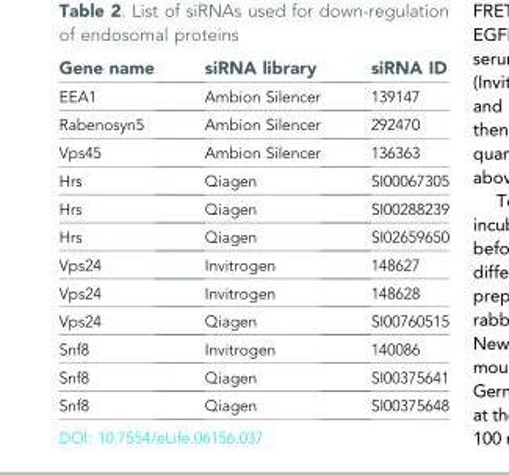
<table><thead><tr><td>Gene name</td><td>siRNA library</td><td>siRNA ID</td></tr></thead><tbody><tr><td>EEA1</td><td>Ambion Silencer</td><td>139147</td></tr><tr><td>Rabenosyn5</td><td>Ambion Silencer</td><td>292470</td></tr><tr><td>Vps45</td><td>Ambion Silencer</td><td>136363</td></tr><tr><td>Hrs</td><td>Qiagen</td><td>SI00067305</td></tr><tr><td>Hrs</td><td>Qiagen</td><td>SI00288239</td></tr><tr><td>Hrs</td><td>Qiagen</td><td>SI02659650</td></tr><tr><td>Vps24</td><td>Invitrogen</td><td>148627</td></tr><tr><td>Vps24</td><td>Invitrogen</td><td>148628</td></tr><tr><td>Vps24</td><td>Qiagen</td><td>SI00760515</td></tr><tr><td>Snf8</td><td>Invitrogen</td><td>140086</td></tr><tr><td>Snf8</td><td>Qiagen</td><td>SI00375641</td></tr><tr><td>Snf8</td><td>Qiagen</td><td>SI00375648</td></tr></tbody></table>